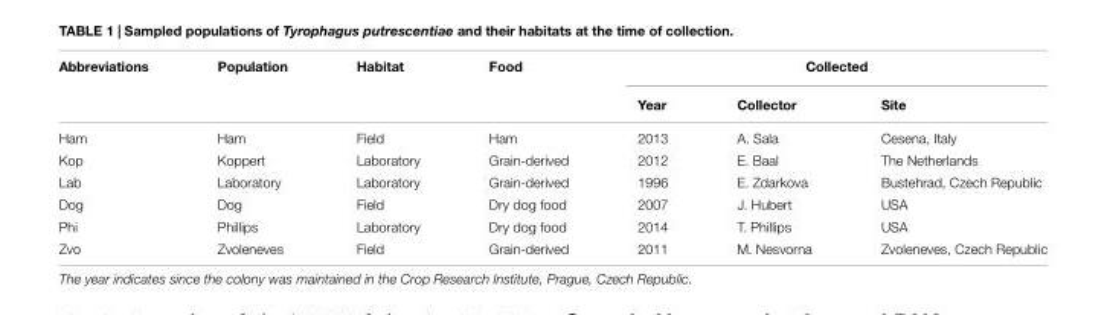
<table><thead><tr><td rowspan="2">Abbreviations</td><td rowspan="2">Population</td><td rowspan="2">Habitat</td><td rowspan="2">Food</td><td colspan="3">Collected</td></tr><tr><td>Year</td><td>Collector</td><td>Site</td></tr></thead><tbody><tr><td>Ham</td><td>Ham</td><td>Field</td><td>Ham</td><td>2013</td><td>A. Sala</td><td>Cesena, Italy</td></tr><tr><td>Kop</td><td>Koppert</td><td>Laboratory</td><td>Grain-derived</td><td>2012</td><td>E. Baal</td><td>The Netherlands</td></tr><tr><td>Lab</td><td>Laboratory</td><td>Laboratory</td><td>Grain-derived</td><td>1996</td><td>E. Zdarkova</td><td>Bustehrad, Czech Republic</td></tr><tr><td>Dog</td><td>Dog</td><td>Field</td><td>Dry dog food</td><td>2007</td><td>J. Hubert</td><td>USA</td></tr><tr><td>Phi</td><td>Phillips</td><td>Laboratory</td><td>Dry dog food</td><td>2014</td><td>T. Phillips</td><td>USA</td></tr><tr><td>Zvo</td><td>Zvoleneves</td><td>Field</td><td>Grain-derived</td><td>2011</td><td>M. Nesvorna</td><td>Zvoleneves, Czech Republic</td></tr></tbody></table>